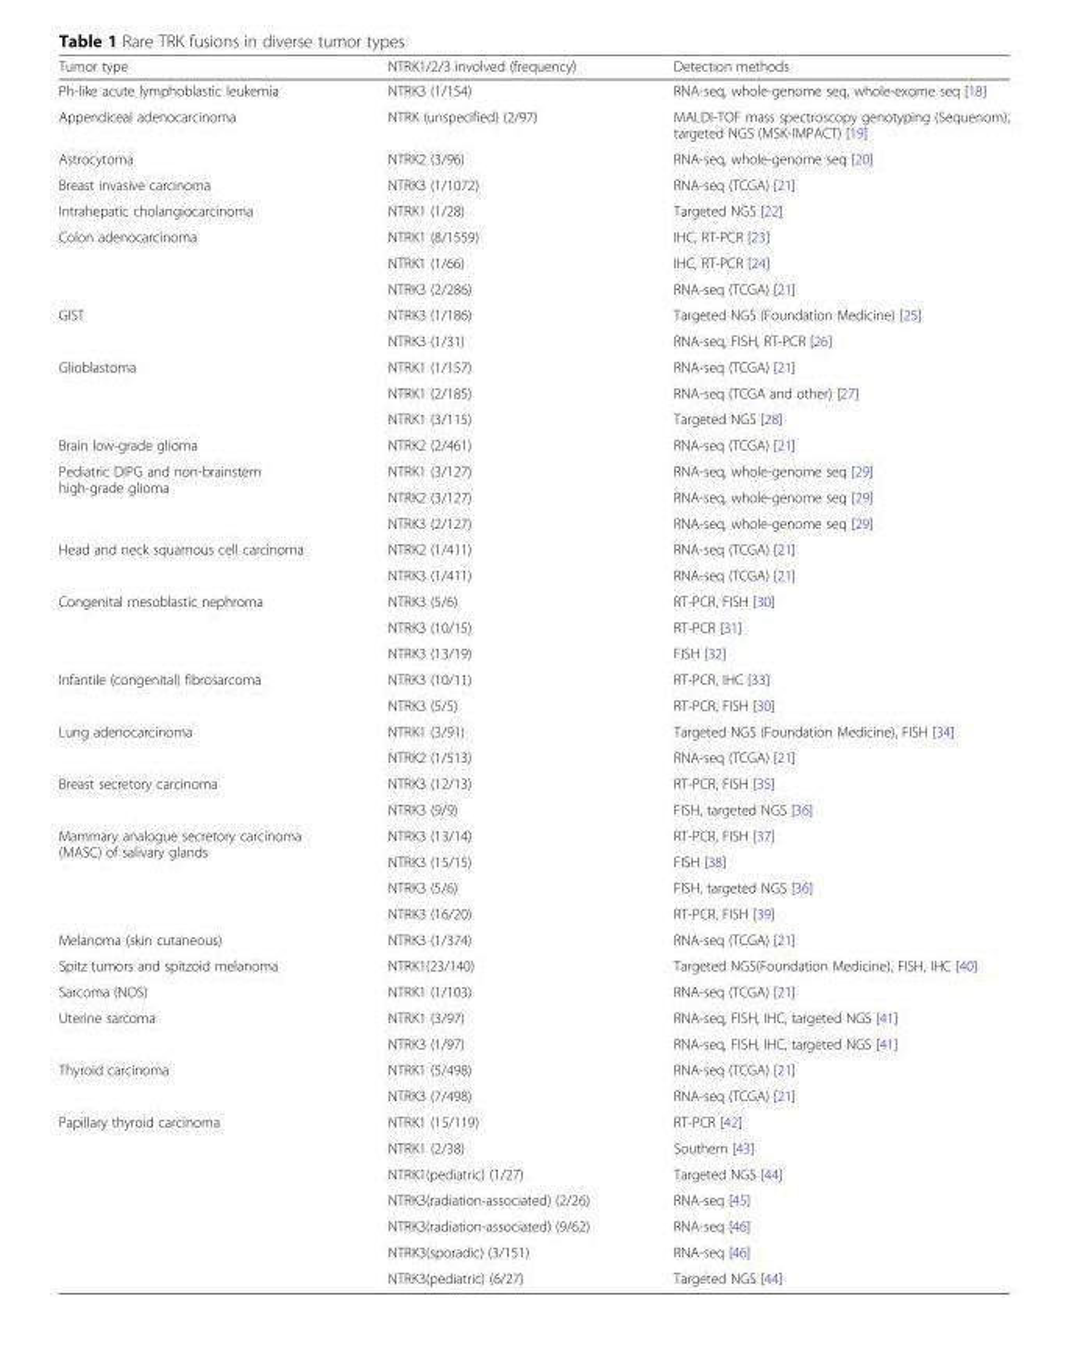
<table><thead><tr><td>Tumor type</td><td>NTRK1/2/3 involved (frequency)</td><td>Detection methods</td></tr></thead><tbody><tr><td>Ph-like acute lymphoblastic leukemia</td><td>NTRK3 (1/154)</td><td>RNA-seq, whole-genome seq, whole-exome seq [18]</td></tr><tr><td>Appendiceal adenocarcinoma</td><td>NTRK (unspecified) (2/97)</td><td>MALDI-TOF mass spectroscopy genotyping (Sequenom), targeted NGS (MSK-IMPACT) [19]</td></tr><tr><td>Astrocytoma</td><td>NTRK2 (3/96)</td><td>RNA-seq, whole-genome seq [20]</td></tr><tr><td>Breast invasive carcinoma</td><td>NTRK3 (1/1072)</td><td>RNA-seq (TCGA) [21]</td></tr><tr><td>Intrahepatic cholangiocarcinoma</td><td>NTRK1 (1/28)</td><td>Targeted NGS [22]</td></tr><tr><td rowspan="3">Colon adenocarcinoma</td><td>NTRK1 (8/1559)</td><td>IHC, RT-PCR [23]</td></tr><tr><td>NTRK1 (1/66)</td><td>IHC, RT-PCR [24]</td></tr><tr><td>NTRK3 (2/286)</td><td>RNA-seq (TCGA) [21]</td></tr><tr><td rowspan="2">GIST</td><td>NTRK3 (1/186)</td><td>Targeted NGS (Foundation Medicine) [25]</td></tr><tr><td>NTRK3 (1/31)</td><td>RNA-seq, FISH, RT-PCR [26]</td></tr><tr><td rowspan="3">Glioblastoma</td><td>NTRK1 (1/157)</td><td>RNA-seq (TCGA) [21]</td></tr><tr><td>NTRK1 (2/185)</td><td>RNA-seq (TCGA and other) [27]</td></tr><tr><td>NTRK1 (3/115)</td><td>Targeted NGS [28]</td></tr><tr><td>Brain low-grade glioma</td><td>NTRK2 (2/461)</td><td>RNA-seq (TCGA) [21]</td></tr><tr><td rowspan="3">Pediatric DIPG and non-brainstem high-grade glioma</td><td>NTRK1 (3/127)</td><td>RNA-seq, whole-genome seq [29]</td></tr><tr><td>NTRK2 (3/127)</td><td>RNA-seq, whole-genome seq [29]</td></tr><tr><td>NTRK3 (2/127)</td><td>RNA-seq, whole-genome seq [29]</td></tr><tr><td rowspan="2">Head and neck squamous cell carcinoma</td><td>NTRK2 (1/411)</td><td>RNA-seq (TCGA) [21]</td></tr><tr><td>NTRK3 (1/411)</td><td>RNA-seq (TCGA) [21]</td></tr><tr><td rowspan="3">Congenital mesoblastic nephroma</td><td>NTRK3 (5/6)</td><td>RT-PCR, FISH [30]</td></tr><tr><td>NTRK3 (10/15)</td><td>RT-PCR [31]</td></tr><tr><td>NTRK3 (13/19)</td><td>FISH [32]</td></tr><tr><td rowspan="2">Infantile (congenital) fibrosarcoma</td><td>NTRK3 (10/11)</td><td>RT-PCR, IHC [33]</td></tr><tr><td>NTRK3 (5/5)</td><td>RT-PCR, FISH [30]</td></tr><tr><td rowspan="2">Lung adenocarcinoma</td><td>NTRK1 (3/91)</td><td>Targeted NGS (Foundation Medicine), FISH [34]</td></tr><tr><td>NTRK2 (1/513)</td><td>RNA-seq (TCGA) [21]</td></tr><tr><td rowspan="2">Breast secretory carcinoma</td><td>NTRK3 (12/13)</td><td>RT-PCR, FISH [35]</td></tr><tr><td>NTRK3 (9/9)</td><td>FISH, targeted NGS [36]</td></tr><tr><td rowspan="4">Mammary analogue secretory carcinoma (MASC) of salivary glands</td><td>NTRK3 (13/14)</td><td>RT-PCR, FISH [37]</td></tr><tr><td>NTRK3 (15/15)</td><td>FISH [38]</td></tr><tr><td>NTRK3 (5/6)</td><td>FISH, targeted NGS [36]</td></tr><tr><td>NTRK3 (16/20)</td><td>RT-PCR, FISH [39]</td></tr><tr><td>Melanoma (skin cutaneous)</td><td>NTRK3 (1/374)</td><td>RNA-seq (TCGA) [21]</td></tr><tr><td>Spitz tumors and spitzoid melanoma</td><td>NTRK1(23/140)</td><td>Targeted NGS(Foundation Medicine), FISH, IHC [40]</td></tr><tr><td>Sarcoma (NOS)</td><td>NTRK1 (1/103)</td><td>RNA-seq (TCGA) [21]</td></tr><tr><td rowspan="2">Uterine sarcoma</td><td>NTRK1 (3/97)</td><td>RNA-seq, FISH, IHC, targeted NGS [41]</td></tr><tr><td>NTRK3 (1/97)</td><td>RNA-seq, FISH, IHC, targeted NGS [41]</td></tr><tr><td rowspan="2">Thyroid carcinoma</td><td>NTRK1 (5/498)</td><td>RNA-seq (TCGA) [21]</td></tr><tr><td>NTRK3 (7/498)</td><td>RNA-seq (TCGA) [21]</td></tr><tr><td rowspan="7">Papillary thyroid carcinoma</td><td>NTRK1 (15/119)</td><td>RT-PCR [42]</td></tr><tr><td>NTRK1 (2/38)</td><td>Southern [43]</td></tr><tr><td>NTRK1(pediatric) (1/27)</td><td>Targeted NGS [44]</td></tr><tr><td>NTRK3(radiation-associated) (2/26)</td><td>RNA-seq [45]</td></tr><tr><td>NTRK3(radiation-associated) (9/62)</td><td>RNA-seq [46]</td></tr><tr><td>NTRK3(sporadic) (3/151)</td><td>RNA-seq [46]</td></tr><tr><td>NTRK3(pediatric) (6/27)</td><td>Targeted NGS [44]</td></tr></tbody></table>